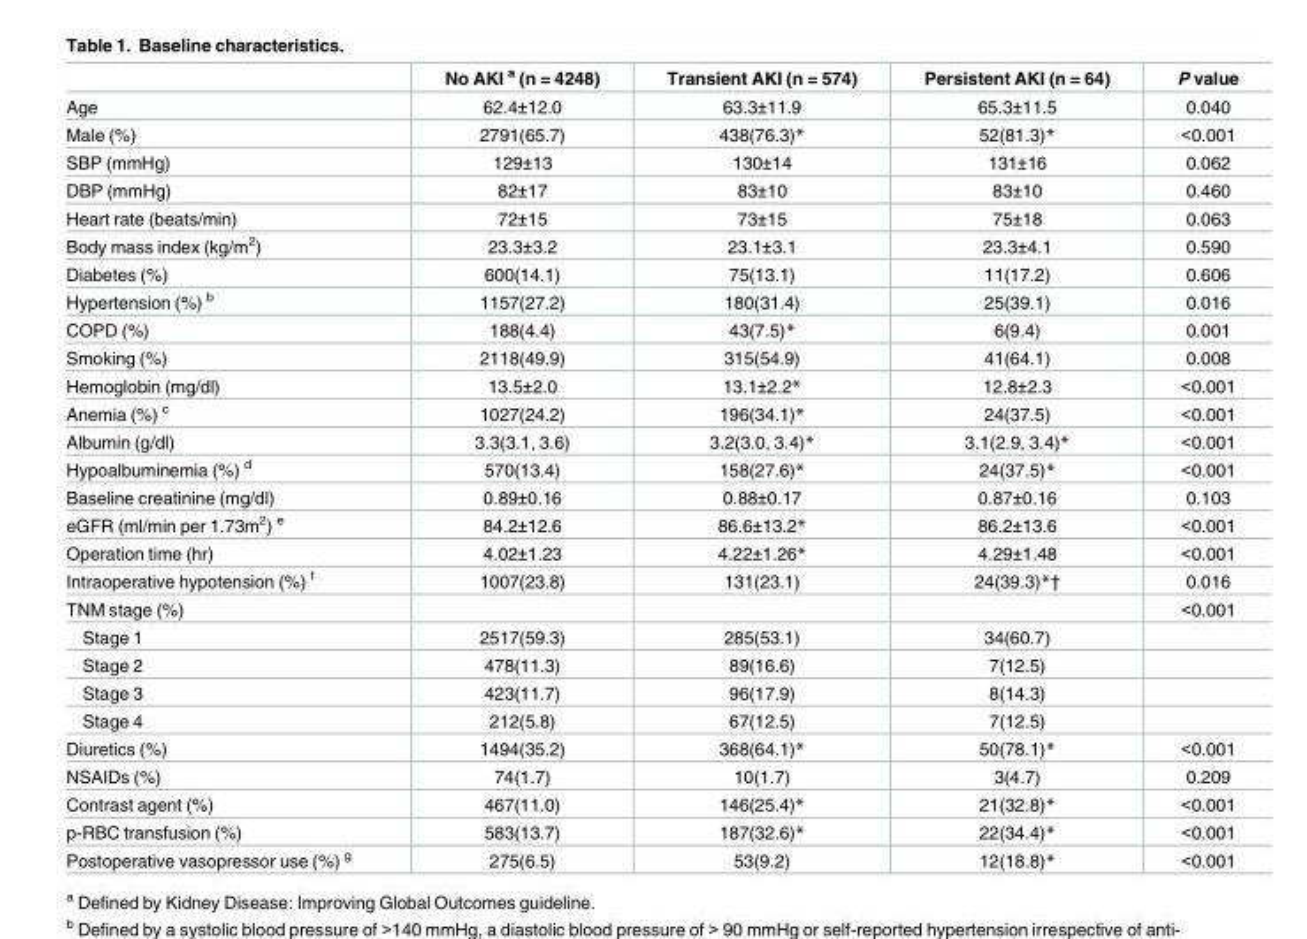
<table><thead><tr><td></td><td>No AKI <sup>a</sup> (n = 4248)</td><td>Transient AKI (n = 574)</td><td>Persistent AKI (n = 64)</td><td>P value</td></tr></thead><tbody><tr><td>Age</td><td>62.4±12.0</td><td>63.3±11.9</td><td>65.3±11.5</td><td>0.040</td></tr><tr><td>Male (%)</td><td>2791(65.7)</td><td>438(76.3)*</td><td>52(81.3)*</td><td>&lt;0.001</td></tr><tr><td>SBP (mmHg)</td><td>129±13</td><td>130±14</td><td>131±16</td><td>0.062</td></tr><tr><td>DBP (mmHg)</td><td>82±17</td><td>83±10</td><td>83±10</td><td>0.460</td></tr><tr><td>Heart rate (beats/min)</td><td>72±15</td><td>73±15</td><td>75±18</td><td>0.063</td></tr><tr><td>Body mass index (kg/m<sup>2</sup>)</td><td>23.3±3.2</td><td>23.1±3.1</td><td>23.3±4.1</td><td>0.590</td></tr><tr><td>Diabetes (%)</td><td>600(14.1)</td><td>75(13.1)</td><td>11(17.2)</td><td>0.606</td></tr><tr><td>Hypertension (%) <sup>b</sup></td><td>1157(27.2)</td><td>180(31.4)</td><td>25(39.1)</td><td>0.016</td></tr><tr><td>COPD (%)</td><td>188(4.4)</td><td>43(7.5)*</td><td>6(9.4)</td><td>0.001</td></tr><tr><td>Smoking (%)</td><td>2118(49.9)</td><td>315(54.9)</td><td>41(64.1)</td><td>0.008</td></tr><tr><td>Hemoglobin (mg/dl)</td><td>13.5±2.0</td><td>13.1±2.2*</td><td>12.8±2.3</td><td>&lt;0.001</td></tr><tr><td>Anemia (%) <sup>c</sup></td><td>1027(24.2)</td><td>196(34.1)*</td><td>24(37.5)</td><td>&lt;0.001</td></tr><tr><td>Albumin (g/dl)</td><td>3.3(3.1, 3.6)</td><td>3.2(3.0, 3.4)*</td><td>3.1(2.9, 3.4)*</td><td>&lt;0.001</td></tr><tr><td>Hypoalbuminemia (%) <sup>d</sup></td><td>570(13.4)</td><td>158(27.6)*</td><td>24(37.5)*</td><td>&lt;0.001</td></tr><tr><td>Baseline creatinine (mg/dl)</td><td>0.89±0.16</td><td>0.88±0.17</td><td>0.87±0.16</td><td>0.103</td></tr><tr><td>eGFR (ml/min per 1.73m<sup>2</sup>) <sup>e</sup></td><td>84.2±12.6</td><td>86.6±13.2*</td><td>86.2±13.6</td><td>&lt;0.001</td></tr><tr><td>Operation time (hr)</td><td>4.02±1.23</td><td>4.22±1.26*</td><td>4.29±1.48</td><td>&lt;0.001</td></tr><tr><td>Intraoperative hypotension (%) <sup>f</sup></td><td>1007(23.8)</td><td>131(23.1)</td><td>24(39.3)*†</td><td>0.016</td></tr><tr><td>TNM stage (%)</td><td></td><td></td><td></td><td>&lt;0.001</td></tr><tr><td>Stage 1</td><td>2517(59.3)</td><td>285(53.1)</td><td>34(60.7)</td><td></td></tr><tr><td>Stage 2</td><td>478(11.3)</td><td>89(16.6)</td><td>7(12.5)</td><td></td></tr><tr><td>Stage 3</td><td>423(11.7)</td><td>96(17.9)</td><td>8(14.3)</td><td></td></tr><tr><td>Stage 4</td><td>212(5.8)</td><td>67(12.5)</td><td>7(12.5)</td><td></td></tr><tr><td>Diuretics (%)</td><td>1494(35.2)</td><td>368(64.1)*</td><td>50(78.1)*</td><td>&lt;0.001</td></tr><tr><td>NSAIDs (%)</td><td>74(1.7)</td><td>10(1.7)</td><td>3(4.7)</td><td>0.209</td></tr><tr><td>Contrast agent (%)</td><td>467(11.0)</td><td>146(25.4)*</td><td>21(32.8)*</td><td>&lt;0.001</td></tr><tr><td>p-RBC transfusion (%)</td><td>583(13.7)</td><td>187(32.6)*</td><td>22(34.4)*</td><td>&lt;0.001</td></tr><tr><td>Postoperative vasopressor use (%) <sup>g</sup></td><td>275(6.5)</td><td>53(9.2)</td><td>12(18.8)*</td><td>&lt;0.001</td></tr></tbody></table>